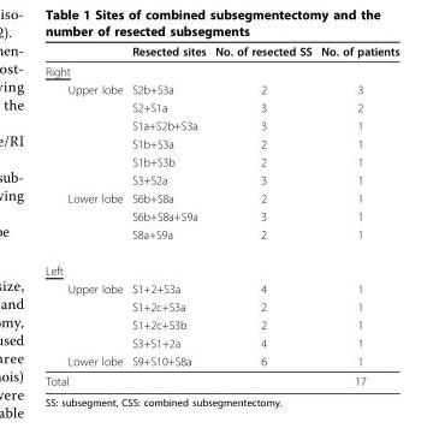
<table><thead><tr><td></td><td>Resected sites</td><td>No. of resected SS</td><td>No. of patients</td></tr></thead><tbody><tr><td colspan="4">Right</td></tr><tr><td rowspan="6">Upper lobe</td><td>S2b+S3a</td><td>2</td><td>3</td></tr><tr><td>S2+S1a</td><td>3</td><td>2</td></tr><tr><td>S1a+S2b+S3a</td><td>3</td><td>1</td></tr><tr><td>S1b+S3a</td><td>2</td><td>1</td></tr><tr><td>S1b+S3b</td><td>2</td><td>1</td></tr><tr><td>S3+S2a</td><td>3</td><td>1</td></tr><tr><td rowspan="3">Lower lobe</td><td>S6b+S8a</td><td>2</td><td>1</td></tr><tr><td>S6b+S8a+S9a</td><td>3</td><td>1</td></tr><tr><td>S8a+S9a</td><td>2</td><td>1</td></tr><tr><td colspan="4">Left</td></tr><tr><td rowspan="4">Upper lobe</td><td>S1+2+S3a</td><td>4</td><td>1</td></tr><tr><td>S1+2c+S3a</td><td>2</td><td>1</td></tr><tr><td>S1+2c+S3b</td><td>2</td><td>1</td></tr><tr><td>S3+S1+2a</td><td>4</td><td>1</td></tr><tr><td>Lower lobe</td><td>S9+S10+S8a</td><td>6</td><td>1</td></tr><tr><td>Total</td><td></td><td></td><td>17</td></tr></tbody></table>